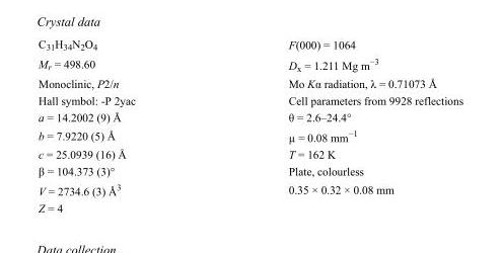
<table><tbody><tr><td>C<sub>31</sub>H<sub>34</sub>N<sub>2</sub>O<sub>4</sub></td><td>F(000) = 1064</td></tr><tr><td>M<sub>r</sub> = 498.60</td><td>D<sub>x</sub> = 1.211 Mg m<sup>−3</sup></td></tr><tr><td>Monoclinic, P2/n</td><td>Mo Kα radiation, λ = 0.71073 Å</td></tr><tr><td>Hall symbol: -P 2yac</td><td>Cell parameters from 9928 reflections</td></tr><tr><td>a = 14.2002 (9) Å</td><td>θ = 2.6–24.4°</td></tr><tr><td>b = 7.9220 (5) Å</td><td>µ = 0.08 mm<sup>−1</sup></td></tr><tr><td>c = 25.0939 (16) Å</td><td>T = 162 K</td></tr><tr><td>β = 104.373 (3)°</td><td>Plate, colourless</td></tr><tr><td>V = 2734.6 (3) Å<sup>3</sup></td><td>0.35 × 0.32 × 0.08 mm</td></tr><tr><td>Z = 4</td><td></td></tr></tbody></table>